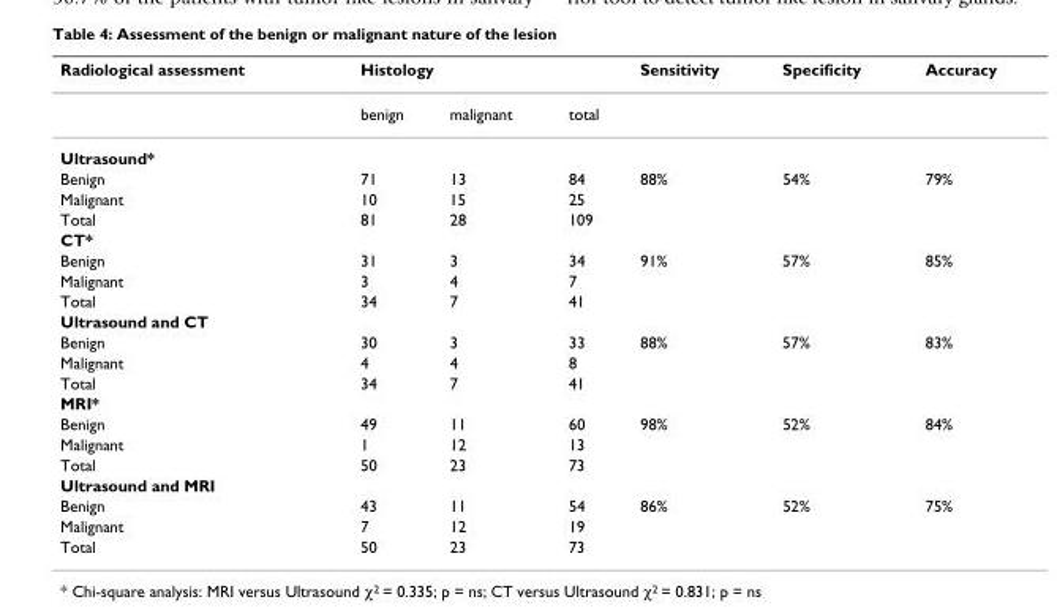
<table><thead><tr><td rowspan="2">Radiological assessment</td><td colspan="3">Histology</td><td rowspan="2">Sensitivity</td><td rowspan="2">Specificity</td><td rowspan="2">Accuracy</td></tr><tr><td>benign</td><td>malignant</td><td>total</td></tr></thead><tbody><tr><td colspan="7">Ultrasound*</td></tr><tr><td>Benign</td><td>71</td><td>13</td><td>84</td><td>88%</td><td>54%</td><td>79%</td></tr><tr><td>Malignant</td><td>10</td><td>15</td><td>25</td><td></td><td></td><td></td></tr><tr><td>Total</td><td>81</td><td>28</td><td>109</td><td></td><td></td><td></td></tr><tr><td colspan="7">CT*</td></tr><tr><td>Benign</td><td>31</td><td>3</td><td>34</td><td>91%</td><td>57%</td><td>85%</td></tr><tr><td>Malignant</td><td>3</td><td>4</td><td>7</td><td></td><td></td><td></td></tr><tr><td>Total</td><td>34</td><td>7</td><td>41</td><td></td><td></td><td></td></tr><tr><td colspan="7">Ultrasound and CT</td></tr><tr><td>Benign</td><td>30</td><td>3</td><td>33</td><td>88%</td><td>57%</td><td>83%</td></tr><tr><td>Malignant</td><td>4</td><td>4</td><td>8</td><td></td><td></td><td></td></tr><tr><td>Total</td><td>34</td><td>7</td><td>41</td><td></td><td></td><td></td></tr><tr><td colspan="7">MRI*</td></tr><tr><td>Benign</td><td>49</td><td>11</td><td>60</td><td>98%</td><td>52%</td><td>84%</td></tr><tr><td>Malignant</td><td>1</td><td>12</td><td>13</td><td></td><td></td><td></td></tr><tr><td>Total</td><td>50</td><td>23</td><td>73</td><td></td><td></td><td></td></tr><tr><td colspan="7">Ultrasound and MRI</td></tr><tr><td>Benign</td><td>43</td><td>11</td><td>54</td><td>86%</td><td>52%</td><td>75%</td></tr><tr><td>Malignant</td><td>7</td><td>12</td><td>19</td><td></td><td></td><td></td></tr><tr><td>Total</td><td>50</td><td>23</td><td>73</td><td></td><td></td><td></td></tr></tbody></table>